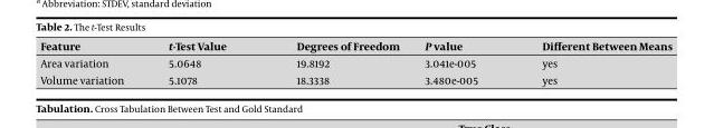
<table><thead><tr><td>Feature</td><td>t-Test Value</td><td>Degrees of Freedom</td><td>P value</td><td>Different Between Means</td></tr></thead><tbody><tr><td>Area variation</td><td>5.0648</td><td>19.8192</td><td>3.041e-005</td><td>yes</td></tr><tr><td>Volume variation</td><td>5.1078</td><td>18.3338</td><td>3.480e-005</td><td>yes</td></tr></tbody></table>